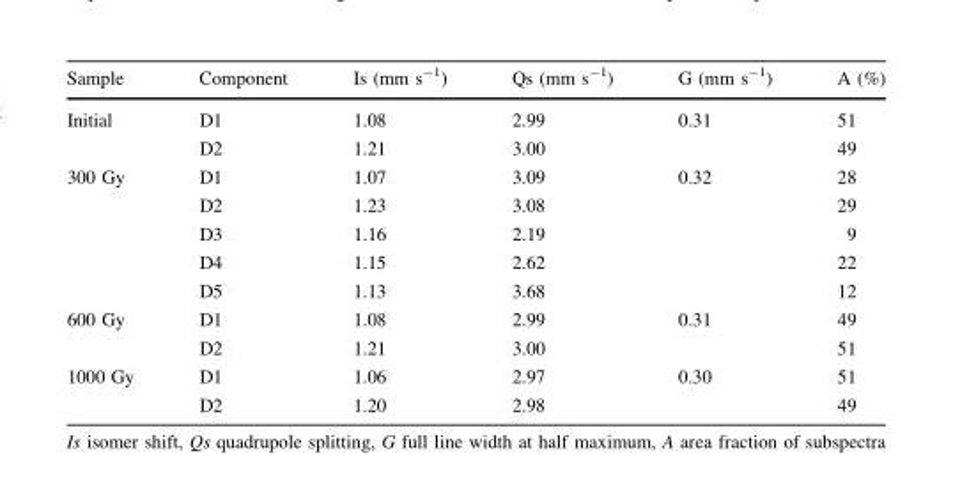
<table><thead><tr><td>Sample</td><td>Component</td><td>Is (mm s<sup>-1</sup>)</td><td>Qs (mm s<sup>-1</sup>)</td><td>G (mm s<sup>-1</sup>)</td><td>A (%)</td></tr></thead><tbody><tr><td rowspan="2">Initial</td><td>D1</td><td>1.08</td><td>2.99</td><td rowspan="2">0.31</td><td>51</td></tr><tr><td>D2</td><td>1.21</td><td>3.00</td><td>49</td></tr><tr><td rowspan="5">300 Gy</td><td>D1</td><td>1.07</td><td>3.09</td><td rowspan="5">0.32</td><td>28</td></tr><tr><td>D2</td><td>1.23</td><td>3.08</td><td>29</td></tr><tr><td>D3</td><td>1.16</td><td>2.19</td><td>9</td></tr><tr><td>D4</td><td>1.15</td><td>2.62</td><td>22</td></tr><tr><td>D5</td><td>1.13</td><td>3.68</td><td>12</td></tr><tr><td rowspan="2">600 Gy</td><td>D1</td><td>1.08</td><td>2.99</td><td rowspan="2">0.31</td><td>49</td></tr><tr><td>D2</td><td>1.21</td><td>3.00</td><td>51</td></tr><tr><td rowspan="2">1000 Gy</td><td>D1</td><td>1.06</td><td>2.97</td><td rowspan="2">0.30</td><td>51</td></tr><tr><td>D2</td><td>1.20</td><td>2.98</td><td>49</td></tr></tbody></table>